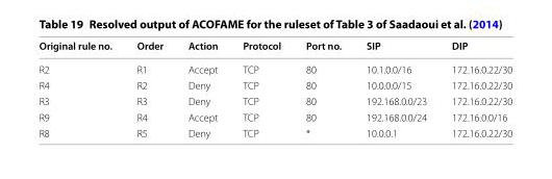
<table><thead><tr><td>Original rule no.</td><td>Order</td><td>Action</td><td>Protocol</td><td>Port no.</td><td>SIP</td><td>DIP</td></tr></thead><tbody><tr><td>R2</td><td>R1</td><td>Accept</td><td>TCP</td><td>80</td><td>10.1.0.0/16</td><td>172.16.0.22/30</td></tr><tr><td>R4</td><td>R2</td><td>Deny</td><td>TCP</td><td>80</td><td>10.0.0.0/15</td><td>172.16.0.22/30</td></tr><tr><td>R3</td><td>R3</td><td>Deny</td><td>TCP</td><td>80</td><td>192.168.0.0/23</td><td>172.16.0.22/30</td></tr><tr><td>R9</td><td>R4</td><td>Accept</td><td>TCP</td><td>80</td><td>192.168.0.0/24</td><td>172.16.0.0/16</td></tr><tr><td>R8</td><td>R5</td><td>Deny</td><td>TCP</td><td>*</td><td>10.0.0.1</td><td>172.16.0.22/30</td></tr></tbody></table>